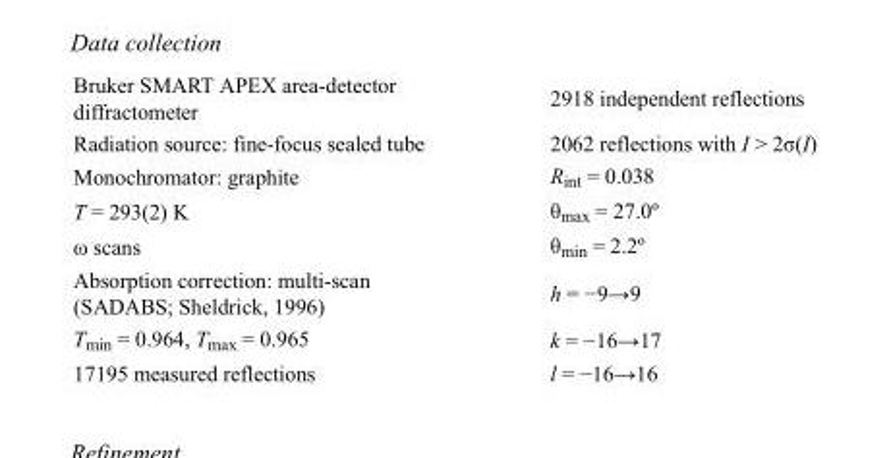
<table><tbody><tr><td>Bruker SMART APEX area-detector diffractometer</td><td>2918 independent reflections</td></tr><tr><td>Radiation source: fine-focus sealed tube</td><td>2062 reflections with I &gt; 2σ(I)</td></tr><tr><td>Monochromator: graphite</td><td>R<sub>int</sub> = 0.038</td></tr><tr><td>T = 293(2) K</td><td>θ<sub>max</sub> = 27.0º</td></tr><tr><td>ω scans</td><td>θ<sub>min</sub> = 2.2º</td></tr><tr><td>Absorption correction: multi-scan (SADABS; Sheldrick, 1996)</td><td>h = −9→9</td></tr><tr><td>T<sub>min</sub> = 0.964, T<sub>max</sub> = 0.965</td><td>k = −16→17</td></tr><tr><td>17195 measured reflections</td><td>l = −16→16</td></tr></tbody></table>